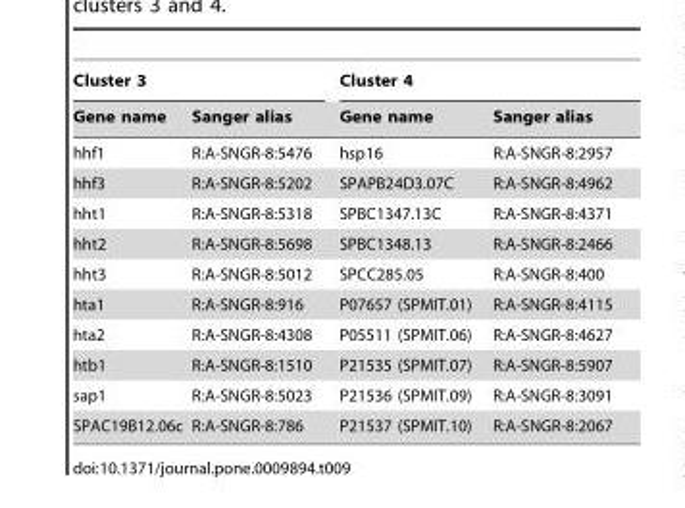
<table><thead><tr><td colspan="2">Cluster 3</td><td colspan="2">Cluster 4</td></tr><tr><td>Gene name</td><td>Sanger alias</td><td>Gene name</td><td>Sanger alias</td></tr></thead><tbody><tr><td>hhf1</td><td>R:A-SNGR-8:5476</td><td>hsp16</td><td>R:A-SNGR-8:2957</td></tr><tr><td>hhf3</td><td>R:A-SNGR-8:5202</td><td>SPAPB24D3.07C</td><td>R:A-SNGR-8:4962</td></tr><tr><td>hht1</td><td>R:A-SNGR-8:5318</td><td>SPBC1347.13C</td><td>R:A-SNGR-8:4371</td></tr><tr><td>hht2</td><td>R:A-SNGR-8:5698</td><td>SPBC1348.13</td><td>R:A-SNGR-8:2466</td></tr><tr><td>hht3</td><td>R:A-SNGR-8:5012</td><td>SPCC285.05</td><td>R:A-SNGR-8:400</td></tr><tr><td>hta1</td><td>R:A-SNGR-8:916</td><td>P07657 (SPMIT.01)</td><td>R:A-SNGR-8:4115</td></tr><tr><td>hta2</td><td>R:A-SNGR-8:4308</td><td>P05511 (SPMIT.06)</td><td>R:A-SNGR-8:4627</td></tr><tr><td>htb1</td><td>R:A-SNGR-8:1510</td><td>P21535 (SPMIT.07)</td><td>R:A-SNGR-8:5907</td></tr><tr><td>sap1</td><td>R:A-SNGR-8:5023</td><td>P21536 (SPMIT.09)</td><td>R:A-SNGR-8:3091</td></tr><tr><td>SPAC19B12.06c</td><td>R:A-SNGR-8:786</td><td>P21537 (SPMIT.10)</td><td>R:A-SNGR-8:2067</td></tr></tbody></table>